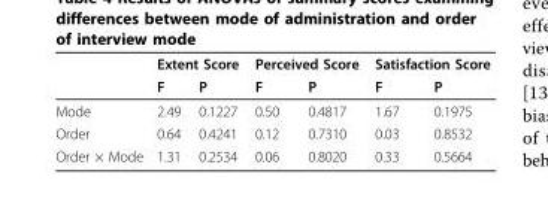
<table><thead><tr><td rowspan="2"></td><td colspan="2">Extent Score</td><td colspan="2">Perceived Score</td><td colspan="2">Satisfaction Score</td></tr><tr><td>F</td><td>P</td><td>F</td><td>P</td><td>F</td><td>P</td></tr></thead><tbody><tr><td>Mode</td><td>2.49</td><td>0.1227</td><td>0.50</td><td>0.4817</td><td>1.67</td><td>0.1975</td></tr><tr><td>Order</td><td>0.64</td><td>0.4241</td><td>0.12</td><td>0.7310</td><td>0.03</td><td>0.8532</td></tr><tr><td>Order × Mode</td><td>1.31</td><td>0.2534</td><td>0.06</td><td>0.8020</td><td>0.33</td><td>0.5664</td></tr></tbody></table>